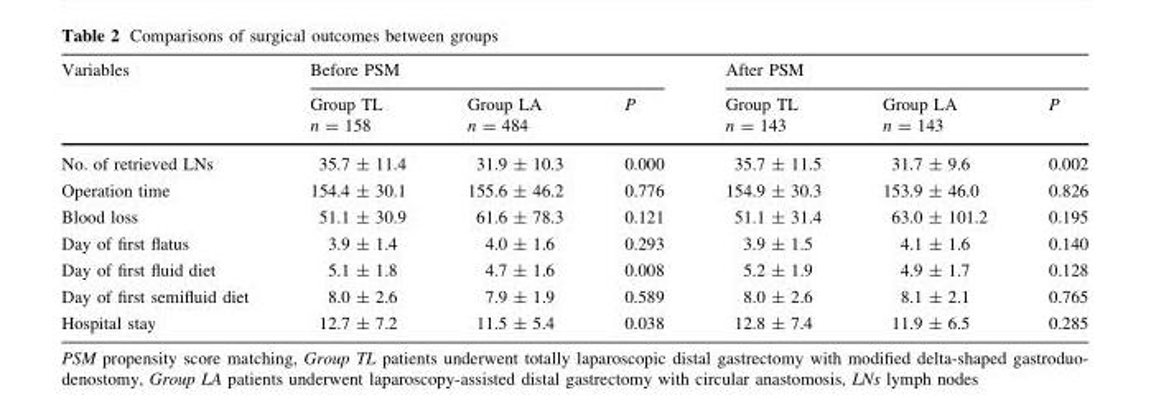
<table><thead><tr><td rowspan="2">Variables</td><td colspan="3">Before PSM</td><td colspan="3">After PSM</td></tr><tr><td>Group TL n = 158</td><td>Group LA n = 484</td><td>P</td><td>Group TL n = 143</td><td>Group LA n = 143</td><td>P</td></tr></thead><tbody><tr><td>No. of retrieved LNs</td><td>35.7 ± 11.4</td><td>31.9 ± 10.3</td><td>0.000</td><td>35.7 ± 11.5</td><td>31.7 ± 9.6</td><td>0.002</td></tr><tr><td>Operation time</td><td>154.4 ± 30.1</td><td>155.6 ± 46.2</td><td>0.776</td><td>154.9 ± 30.3</td><td>153.9 ± 46.0</td><td>0.826</td></tr><tr><td>Blood loss</td><td>51.1 ± 30.9</td><td>61.6 ± 78.3</td><td>0.121</td><td>51.1 ± 31.4</td><td>63.0 ± 101.2</td><td>0.195</td></tr><tr><td>Day of first flatus</td><td>3.9 ± 1.4</td><td>4.0 ± 1.6</td><td>0.293</td><td>3.9 ± 1.5</td><td>4.1 ± 1.6</td><td>0.140</td></tr><tr><td>Day of first fluid diet</td><td>5.1 ± 1.8</td><td>4.7 ± 1.6</td><td>0.008</td><td>5.2 ± 1.9</td><td>4.9 ± 1.7</td><td>0.128</td></tr><tr><td>Day of first semifluid diet</td><td>8.0 ± 2.6</td><td>7.9 ± 1.9</td><td>0.589</td><td>8.0 ± 2.6</td><td>8.1 ± 2.1</td><td>0.765</td></tr><tr><td>Hospital stay</td><td>12.7 ± 7.2</td><td>11.5 ± 5.4</td><td>0.038</td><td>12.8 ± 7.4</td><td>11.9 ± 6.5</td><td>0.285</td></tr></tbody></table>